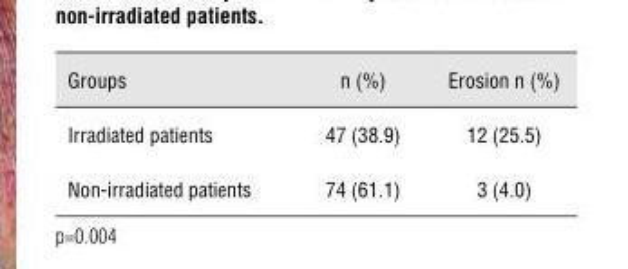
<table><thead><tr><td>Groups</td><td>n (%)</td><td>Erosion n (%)</td></tr></thead><tbody><tr><td>Irradiated patients</td><td>47 (38.9)</td><td>12 (25.5)</td></tr><tr><td>Non-irradiated patients</td><td>74 (61.1)</td><td>3 (4.0)</td></tr></tbody></table>